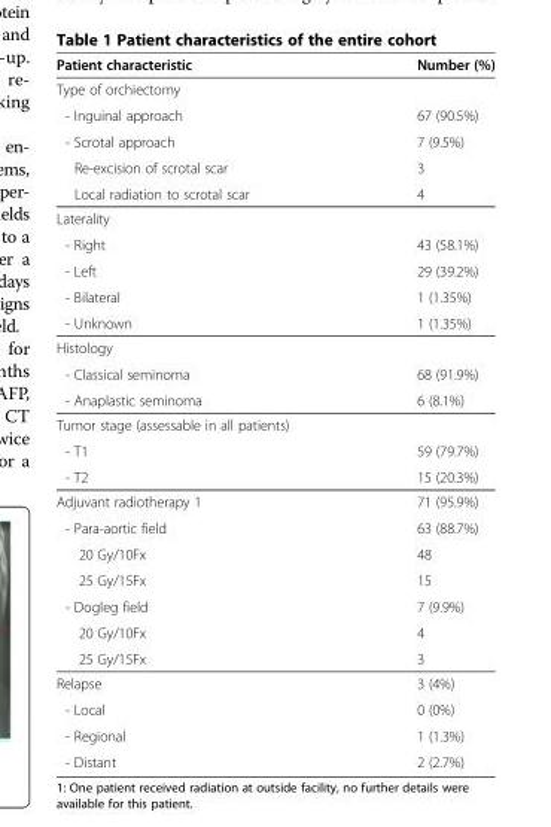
<table><thead><tr><td>Patient characteristic</td><td>Number (%)</td></tr></thead><tbody><tr><td colspan="2">Type of orchiectomy</td></tr><tr><td>- Inguinal approach</td><td>67 (90.5%)</td></tr><tr><td>- Scrotal approach</td><td>7 (9.5%)</td></tr><tr><td>Re-excision of scrotal scar</td><td>3</td></tr><tr><td>Local radiation to scrotal scar</td><td>4</td></tr><tr><td colspan="2">Laterality</td></tr><tr><td>- Right</td><td>43 (58.1%)</td></tr><tr><td>- Left</td><td>29 (39.2%)</td></tr><tr><td>- Bilateral</td><td>1 (1.35%)</td></tr><tr><td>- Unknown</td><td>1 (1.35%)</td></tr><tr><td colspan="2">Histology</td></tr><tr><td>- Classical seminoma</td><td>68 (91.9%)</td></tr><tr><td>- Anaplastic seminoma</td><td>6 (8.1%)</td></tr><tr><td colspan="2">Tumor stage (assessable in all patients)</td></tr><tr><td>- T1</td><td>59 (79.7%)</td></tr><tr><td>- T2</td><td>15 (20.3%)</td></tr><tr><td>Adjuvant radiotherapy 1</td><td>71 (95.9%)</td></tr><tr><td>- Para-aortic field</td><td>63 (88.7%)</td></tr><tr><td>20 Gy/10Fx</td><td>48</td></tr><tr><td>25 Gy/15Fx</td><td>15</td></tr><tr><td>- Dogleg field</td><td>7 (9.9%)</td></tr><tr><td>20 Gy/10Fx</td><td>4</td></tr><tr><td>25 Gy/15Fx</td><td>3</td></tr><tr><td>Relapse</td><td>3 (4%)</td></tr><tr><td>- Local</td><td>0 (0%)</td></tr><tr><td>- Regional</td><td>1 (1.3%)</td></tr><tr><td>- Distant</td><td>2 (2.7%)</td></tr></tbody></table>